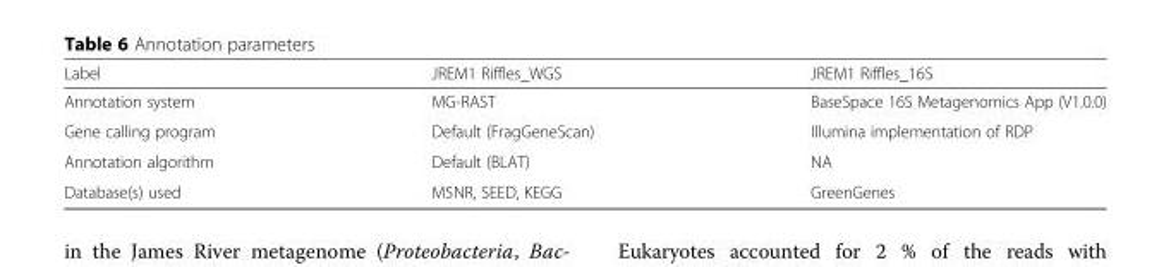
<table><thead><tr><td>Label</td><td>JREM1 Riffles_WGS</td><td>JREM1 Riffles_16S</td></tr></thead><tbody><tr><td>Annotation system</td><td>MG-RAST</td><td>BaseSpace 16S Metagenomics App (V1.0.0)</td></tr><tr><td>Gene calling program</td><td>Default (FragGeneScan)</td><td>Illumina implementation of RDP</td></tr><tr><td>Annotation algorithm</td><td>Default (BLAT)</td><td>NA</td></tr><tr><td>Database(s) used</td><td>M5NR, SEED, KEGG</td><td>GreenGenes</td></tr></tbody></table>